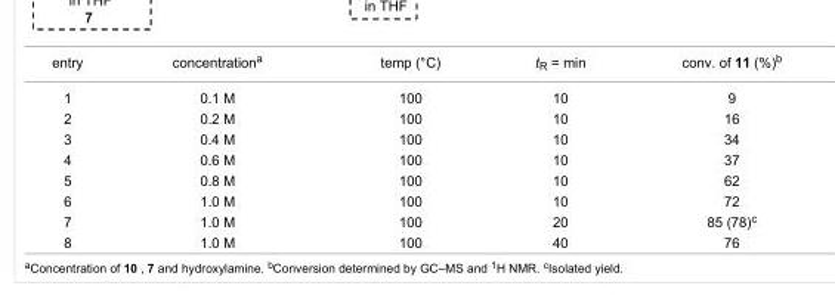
<table><tbody><tr><td>entry</td><td>concentration<sup>a</sup></td><td>temp (°C)</td><td>t<sub>R</sub> = min</td><td>conv. of 11 (%)<sup>b</sup></td></tr><tr><td>1</td><td>0.1 M</td><td>100</td><td>10</td><td>9</td></tr><tr><td>2</td><td>0.2 M</td><td>100</td><td>10</td><td>16</td></tr><tr><td>3</td><td>0.4 M</td><td>100</td><td>10</td><td>34</td></tr><tr><td>4</td><td>0.6 M</td><td>100</td><td>10</td><td>37</td></tr><tr><td>5</td><td>0.8 M</td><td>100</td><td>10</td><td>62</td></tr><tr><td>6</td><td>1.0 M</td><td>100</td><td>10</td><td>72</td></tr><tr><td>7</td><td>1.0 M</td><td>100</td><td>20</td><td>85 (78)<sup>c</sup></td></tr><tr><td>8</td><td>1.0 M</td><td>100</td><td>40</td><td>76</td></tr></tbody></table>